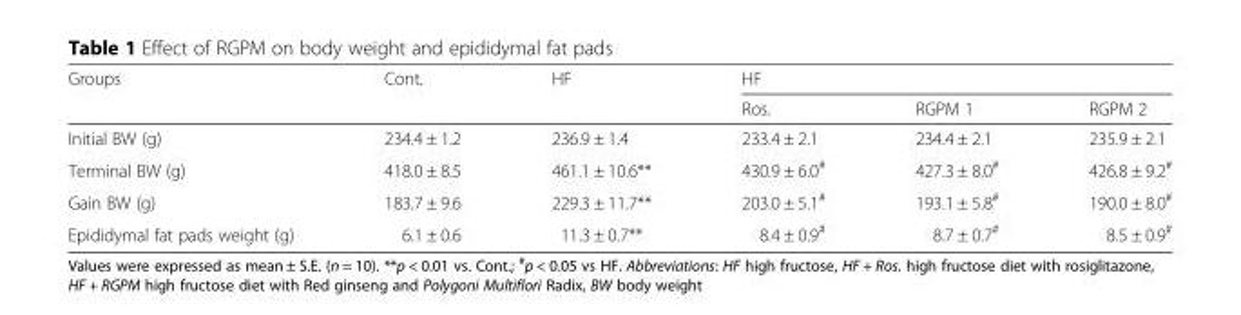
<table><thead><tr><td rowspan="2">Groups</td><td rowspan="2">Cont.</td><td rowspan="2">HF</td><td colspan="3">HF</td></tr><tr><td>Ros.</td><td>RGPM 1</td><td>RGPM 2</td></tr></thead><tbody><tr><td>Initial BW (g)</td><td>234.4 ± 1.2</td><td>236.9 ± 1.4</td><td>233.4 ± 2.1</td><td>234.4 ± 2.1</td><td>235.9 ± 2.1</td></tr><tr><td>Terminal BW (g)</td><td>418.0 ± 8.5</td><td>461.1 ± 10.6**</td><td>430.9 ± 6.0<sup>#</sup></td><td>427.3 ± 8.0<sup>#</sup></td><td>426.8 ± 9.2<sup>#</sup></td></tr><tr><td>Gain BW (g)</td><td>183.7 ± 9.6</td><td>229.3 ± 11.7**</td><td>203.0 ± 5.1<sup>#</sup></td><td>193.1 ± 5.8<sup>#</sup></td><td>190.0 ± 8.0<sup>#</sup></td></tr><tr><td>Epididymal fat pads weight (g)</td><td>6.1 ± 0.6</td><td>11.3 ± 0.7**</td><td>8.4 ± 0.9<sup>#</sup></td><td>8.7 ± 0.7<sup>#</sup></td><td>8.5 ± 0.9<sup>#</sup></td></tr></tbody></table>